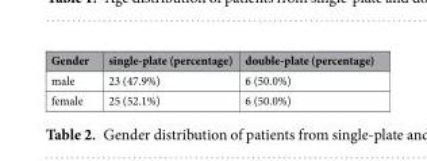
<table><thead><tr><td>Gender</td><td>single-plate (percentage)</td><td>double-plate (percentage)</td></tr></thead><tbody><tr><td>male</td><td>23 (47.9%)</td><td>6 (50.0%)</td></tr><tr><td>female</td><td>25 (52.1%)</td><td>6 (50.0%)</td></tr></tbody></table>